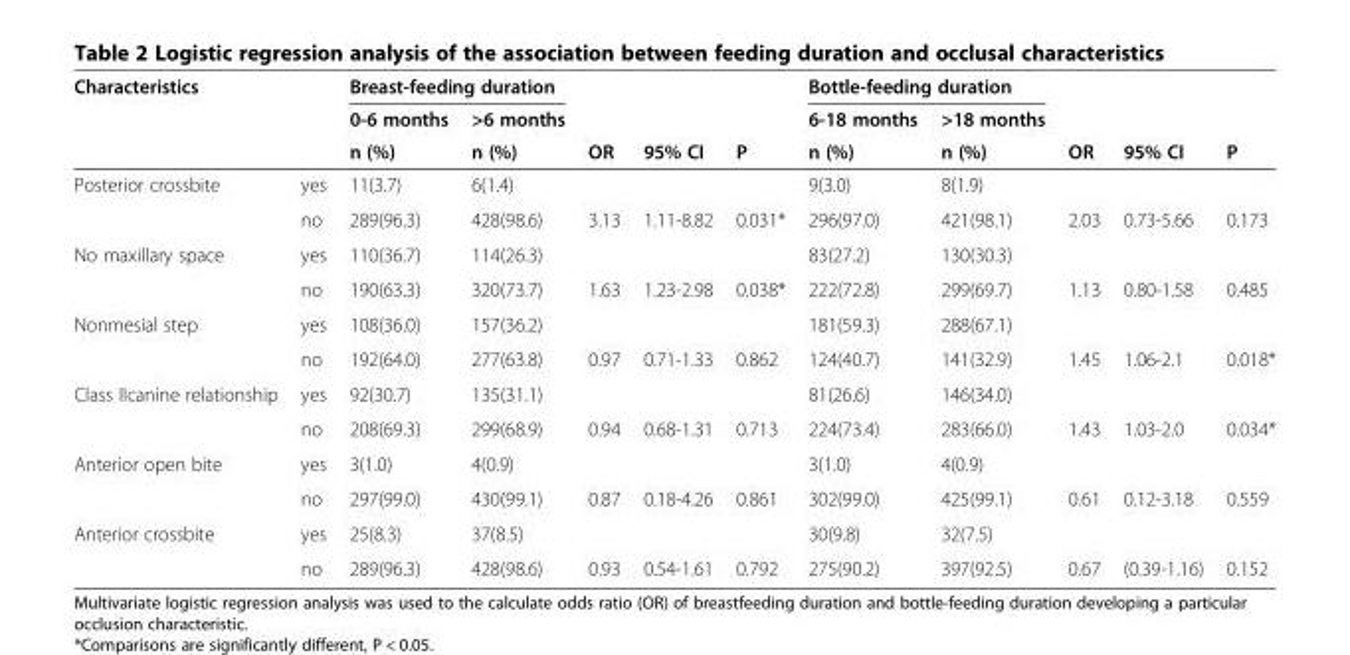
<table><thead><tr><td rowspan="3">Characteristics</td><td rowspan="3"></td><td colspan="2">Breast-feeding duration</td><td rowspan="3">OR</td><td rowspan="3">95% CI</td><td rowspan="3">P</td><td colspan="2">Bottle-feeding duration</td><td rowspan="3">OR</td><td rowspan="3">95% CI</td><td rowspan="3">P</td></tr><tr><td rowspan="2">0-6 months n (%)</td><td rowspan="2">&gt;6 months n (%)</td><td rowspan="2">6-18 months n (%)</td><td rowspan="2">&gt;18 months n (%)</td></tr><tr></tr></thead><tbody><tr><td rowspan="2">Posterior crossbite</td><td>yes</td><td>11(3.7)</td><td>6(1.4)</td><td></td><td></td><td></td><td>9(3.0)</td><td>8(1.9)</td><td></td><td></td><td></td></tr><tr><td>no</td><td>289(96.3)</td><td>428(98.6)</td><td>3.13</td><td>1.11-8.82</td><td>0.031*</td><td>296(97.0)</td><td>421(98.1)</td><td>2.03</td><td>0.73-5.66</td><td>0.173</td></tr><tr><td rowspan="2">No maxillary space</td><td>yes</td><td>110(36.7)</td><td>114(26.3)</td><td></td><td></td><td></td><td>83(27.2)</td><td>130(30.3)</td><td></td><td></td><td></td></tr><tr><td>no</td><td>190(63.3)</td><td>320(73.7)</td><td>1.63</td><td>1.23-2.98</td><td>0.038*</td><td>222(72.8)</td><td>299(69.7)</td><td>1.13</td><td>0.80-1.58</td><td>0.485</td></tr><tr><td rowspan="2">Nonmesial step</td><td>yes</td><td>108(36.0)</td><td>157(36.2)</td><td></td><td></td><td></td><td>181(59.3)</td><td>288(67.1)</td><td></td><td></td><td></td></tr><tr><td>no</td><td>192(64.0)</td><td>277(63.8)</td><td>0.97</td><td>0.71-1.33</td><td>0.862</td><td>124(40.7)</td><td>141(32.9)</td><td>1.45</td><td>1.06-2.1</td><td>0.018*</td></tr><tr><td rowspan="2">Class IIcanine relationship</td><td>yes</td><td>92(30.7)</td><td>135(31.1)</td><td></td><td></td><td></td><td>81(26.6)</td><td>146(34.0)</td><td></td><td></td><td></td></tr><tr><td>no</td><td>208(69.3)</td><td>299(68.9)</td><td>0.94</td><td>0.68-1.31</td><td>0.713</td><td>224(73.4)</td><td>283(66.0)</td><td>1.43</td><td>1.03-2.0</td><td>0.034*</td></tr><tr><td rowspan="2">Anterior open bite</td><td>yes</td><td>3(1.0)</td><td>4(0.9)</td><td></td><td></td><td></td><td>3(1.0)</td><td>4(0.9)</td><td></td><td></td><td></td></tr><tr><td>no</td><td>297(99.0)</td><td>430(99.1)</td><td>0.87</td><td>0.18-4.26</td><td>0.861</td><td>302(99.0)</td><td>425(99.1)</td><td>0.61</td><td>0.12-3.18</td><td>0.559</td></tr><tr><td rowspan="2">Anterior crossbite</td><td>yes</td><td>25(8.3)</td><td>37(8.5)</td><td></td><td></td><td></td><td>30(9.8)</td><td>32(7.5)</td><td></td><td></td><td></td></tr><tr><td>no</td><td>289(96.3)</td><td>428(98.6)</td><td>0.93</td><td>0.54-1.61</td><td>0.792</td><td>275(90.2)</td><td>397(92.5)</td><td>0.67</td><td>(0.39-1.16)</td><td>0.152</td></tr></tbody></table>